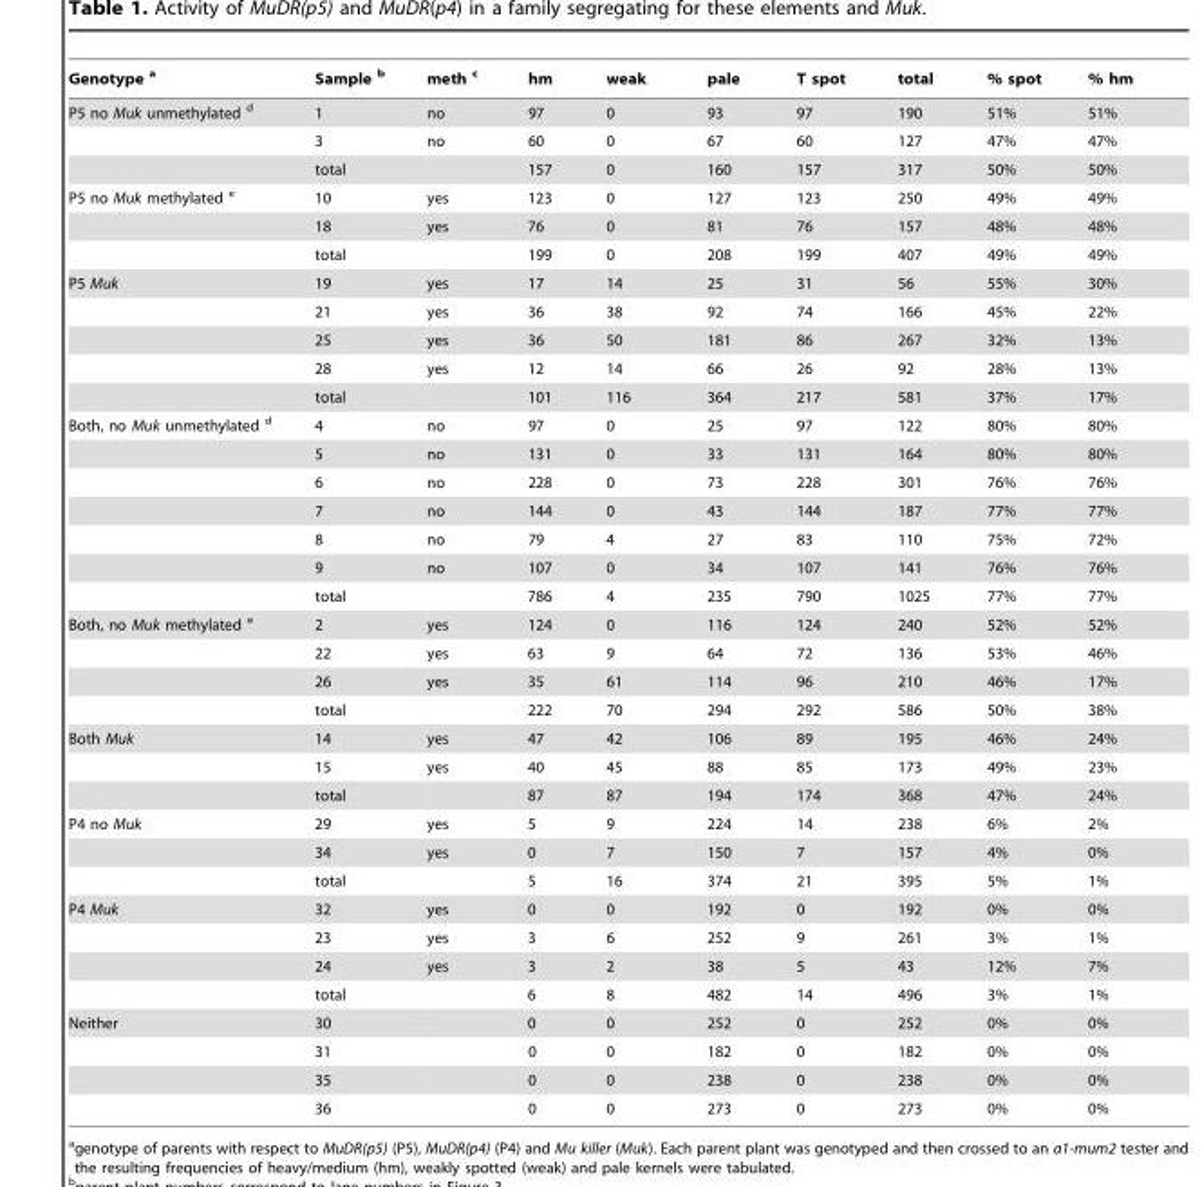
<table><thead><tr><td>Genotype a</td><td>Sample b</td><td>meth c</td><td>hm</td><td>weak</td><td>pale</td><td>T spot</td><td>total</td><td>% spot</td><td>% hm</td></tr></thead><tbody><tr><td rowspan="3">P5 no Muk unmethylated d</td><td>1</td><td>no</td><td>97</td><td>0</td><td>93</td><td>97</td><td>190</td><td>51%</td><td>51%</td></tr><tr><td>3</td><td>no</td><td>60</td><td>0</td><td>67</td><td>60</td><td>127</td><td>47%</td><td>47%</td></tr><tr><td>total</td><td></td><td>157</td><td>0</td><td>160</td><td>157</td><td>317</td><td>50%</td><td>50%</td></tr><tr><td rowspan="3">P5 no Muk methylated e</td><td>10</td><td>yes</td><td>123</td><td>0</td><td>127</td><td>123</td><td>250</td><td>49%</td><td>49%</td></tr><tr><td>18</td><td>yes</td><td>76</td><td>0</td><td>81</td><td>76</td><td>157</td><td>48%</td><td>48%</td></tr><tr><td>total</td><td></td><td>199</td><td>0</td><td>208</td><td>199</td><td>407</td><td>49%</td><td>49%</td></tr><tr><td rowspan="5">P5 Muk</td><td>19</td><td>yes</td><td>17</td><td>14</td><td>25</td><td>31</td><td>56</td><td>55%</td><td>30%</td></tr><tr><td>21</td><td>yes</td><td>36</td><td>38</td><td>92</td><td>74</td><td>166</td><td>45%</td><td>22%</td></tr><tr><td>25</td><td>yes</td><td>36</td><td>50</td><td>181</td><td>86</td><td>267</td><td>32%</td><td>13%</td></tr><tr><td>28</td><td>yes</td><td>12</td><td>14</td><td>66</td><td>26</td><td>92</td><td>28%</td><td>13%</td></tr><tr><td>total</td><td></td><td>101</td><td>116</td><td>364</td><td>217</td><td>581</td><td>37%</td><td>17%</td></tr><tr><td rowspan="7">Both, no Muk unmethylated d</td><td>4</td><td>no</td><td>97</td><td>0</td><td>25</td><td>97</td><td>122</td><td>80%</td><td>80%</td></tr><tr><td>5</td><td>no</td><td>131</td><td>0</td><td>33</td><td>131</td><td>164</td><td>80%</td><td>80%</td></tr><tr><td>6</td><td>no</td><td>228</td><td>0</td><td>73</td><td>228</td><td>301</td><td>76%</td><td>76%</td></tr><tr><td>7</td><td>no</td><td>144</td><td>0</td><td>43</td><td>144</td><td>187</td><td>77%</td><td>77%</td></tr><tr><td>8</td><td>no</td><td>79</td><td>4</td><td>27</td><td>83</td><td>110</td><td>75%</td><td>72%</td></tr><tr><td>9</td><td>no</td><td>107</td><td>0</td><td>34</td><td>107</td><td>141</td><td>76%</td><td>76%</td></tr><tr><td>total</td><td></td><td>786</td><td>4</td><td>235</td><td>790</td><td>1025</td><td>77%</td><td>77%</td></tr><tr><td rowspan="4">Both, no Muk methylated e</td><td>2</td><td>yes</td><td>124</td><td>0</td><td>116</td><td>124</td><td>240</td><td>52%</td><td>52%</td></tr><tr><td>22</td><td>yes</td><td>63</td><td>9</td><td>64</td><td>72</td><td>136</td><td>53%</td><td>46%</td></tr><tr><td>26</td><td>yes</td><td>35</td><td>61</td><td>114</td><td>96</td><td>210</td><td>46%</td><td>17%</td></tr><tr><td>total</td><td></td><td>222</td><td>70</td><td>294</td><td>292</td><td>586</td><td>50%</td><td>38%</td></tr><tr><td rowspan="3">Both Muk</td><td>14</td><td>yes</td><td>47</td><td>42</td><td>106</td><td>89</td><td>195</td><td>46%</td><td>24%</td></tr><tr><td>15</td><td>yes</td><td>40</td><td>45</td><td>88</td><td>85</td><td>173</td><td>49%</td><td>23%</td></tr><tr><td>total</td><td></td><td>87</td><td>87</td><td>194</td><td>174</td><td>368</td><td>47%</td><td>24%</td></tr><tr><td rowspan="3">P4 no Muk</td><td>29</td><td>yes</td><td>5</td><td>9</td><td>224</td><td>14</td><td>238</td><td>6%</td><td>2%</td></tr><tr><td>34</td><td>yes</td><td>0</td><td>7</td><td>150</td><td>7</td><td>157</td><td>4%</td><td>0%</td></tr><tr><td>total</td><td></td><td>5</td><td>16</td><td>374</td><td>21</td><td>395</td><td>5%</td><td>1%</td></tr><tr><td rowspan="4">P4 Muk</td><td>32</td><td>yes</td><td>0</td><td>0</td><td>192</td><td>0</td><td>192</td><td>0%</td><td>0%</td></tr><tr><td>23</td><td>yes</td><td>3</td><td>6</td><td>252</td><td>9</td><td>261</td><td>3%</td><td>1%</td></tr><tr><td>24</td><td>yes</td><td>3</td><td>2</td><td>38</td><td>5</td><td>43</td><td>12%</td><td>7%</td></tr><tr><td>total</td><td></td><td>6</td><td>8</td><td>482</td><td>14</td><td>496</td><td>3%</td><td>1%</td></tr><tr><td rowspan="4">Neither</td><td>30</td><td></td><td>0</td><td>0</td><td>252</td><td>0</td><td>252</td><td>0%</td><td>0%</td></tr><tr><td>31</td><td></td><td>0</td><td>0</td><td>182</td><td>0</td><td>182</td><td>0%</td><td>0%</td></tr><tr><td>35</td><td></td><td>0</td><td>0</td><td>238</td><td>0</td><td>238</td><td>0%</td><td>0%</td></tr><tr><td>36</td><td></td><td>0</td><td>0</td><td>273</td><td>0</td><td>273</td><td>0%</td><td>0%</td></tr></tbody></table>